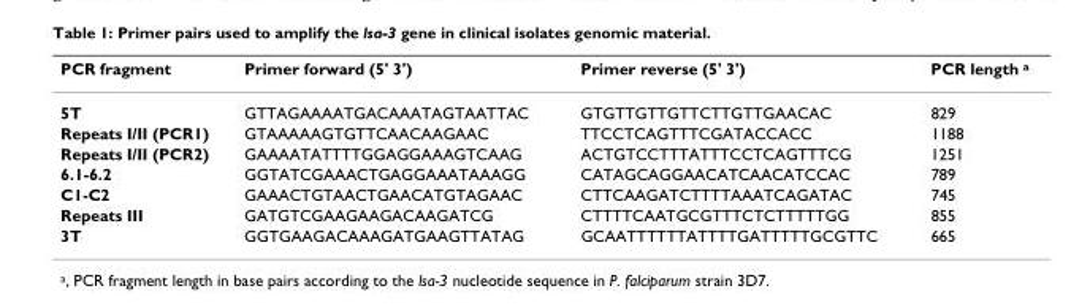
<table><thead><tr><td>PCR fragment</td><td>Primer forward (5&#x27; 3&#x27;)</td><td>Primer reverse (5&#x27; 3&#x27;)</td><td>PCR length <sup>a</sup></td></tr></thead><tbody><tr><td>5T</td><td>GTTAGAAAATGACAAATAGTAATTAC</td><td>GTGTTGTTGTTCTTGTTGAACAC</td><td>829</td></tr><tr><td>Repeats I/II (PCR1)</td><td>GTAAAAAGTGTTCAACAAGAAC</td><td>TTCCTCAGTTTCGATACCACC</td><td>1188</td></tr><tr><td>Repeats I/II (PCR2)</td><td>GAAAATATTTTGGAGGAAAGTCAAG</td><td>ACTGTCCTTTATTTCCTCAGTTTCG</td><td>1251</td></tr><tr><td>6.1-6.2</td><td>GGTATCGAAACTGAGGAAATAAAGG</td><td>CATAGCAGGAACATCAACATCCAC</td><td>789</td></tr><tr><td>C1-C2</td><td>GAAACTGTAACTGAACATGTAGAAC</td><td>CTTCAAGATCTTTTAAATCAGATAC</td><td>745</td></tr><tr><td>Repeats III</td><td>GATGTCGAAGAAGACAAGATCG</td><td>CTTTTCAATGCGTTTCTCTTTTTGG</td><td>855</td></tr><tr><td>3T</td><td>GGTGAAGACAAAGATGAAGTTATAG</td><td>GCAATTTTTTATTTTGATTTTTGCGTTC</td><td>665</td></tr></tbody></table>